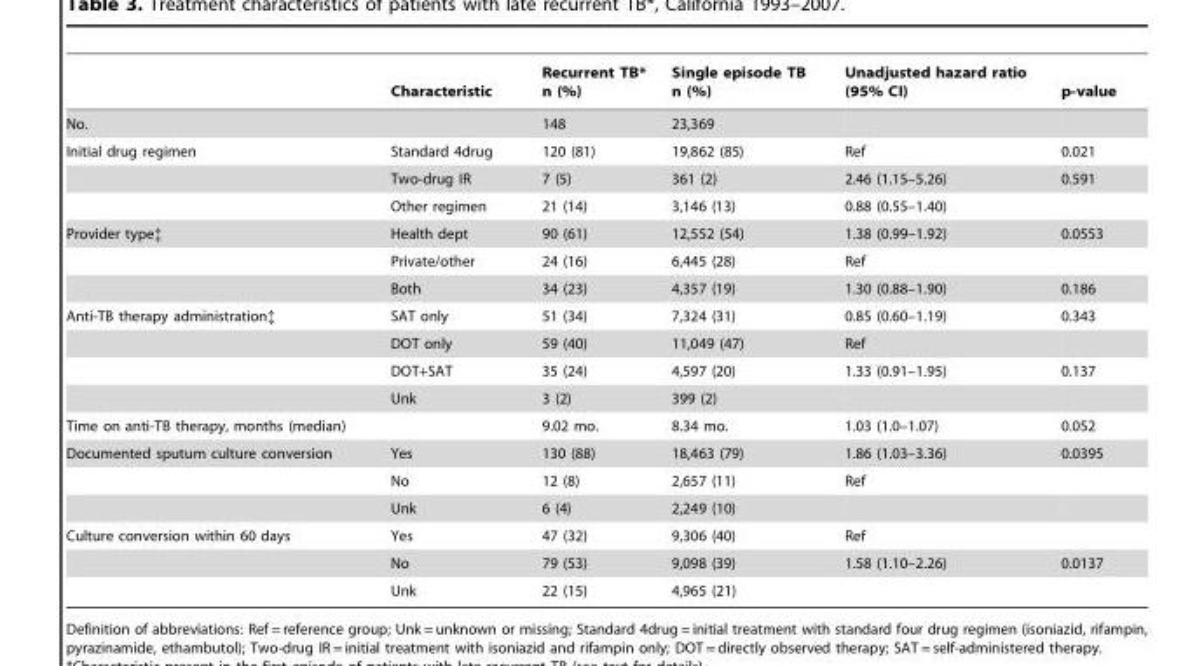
<table><thead><tr><td></td><td>Characteristic</td><td>Recurrent TB* n (%)</td><td>Single episode TB n (%)</td><td>Unadjusted hazard ratio (95% CI)</td><td>p-value</td></tr></thead><tbody><tr><td>No.</td><td></td><td>148</td><td>23,369</td><td></td><td></td></tr><tr><td rowspan="3">Initial drug regimen</td><td>Standard 4drug</td><td>120 (81)</td><td>19,862 (85)</td><td>Ref</td><td>0.021</td></tr><tr><td>Two-drug IR</td><td>7 (5)</td><td>361 (2)</td><td>2.46 (1.15–5.26)</td><td>0.591</td></tr><tr><td>Other regimen</td><td>21 (14)</td><td>3,146 (13)</td><td>0.88 (0.55–1.40)</td><td></td></tr><tr><td rowspan="3">Provider type‡</td><td>Health dept</td><td>90 (61)</td><td>12,552 (54)</td><td>1.38 (0.99–1.92)</td><td>0.0553</td></tr><tr><td>Private/other</td><td>24 (16)</td><td>6,445 (28)</td><td>Ref</td><td></td></tr><tr><td>Both</td><td>34 (23)</td><td>4,357 (19)</td><td>1.30 (0.88–1.90)</td><td>0.186</td></tr><tr><td rowspan="4">Anti-TB therapy administration‡</td><td>SAT only</td><td>51 (34)</td><td>7,324 (31)</td><td>0.85 (0.60–1.19)</td><td>0.343</td></tr><tr><td>DOT only</td><td>59 (40)</td><td>11,049 (47)</td><td>Ref</td><td></td></tr><tr><td>DOT+SAT</td><td>35 (24)</td><td>4,597 (20)</td><td>1.33 (0.91–1.95)</td><td>0.137</td></tr><tr><td>Unk</td><td>3 (2)</td><td>399 (2)</td><td></td><td></td></tr><tr><td>Time on anti-TB therapy, months (median)</td><td></td><td>9.02 mo.</td><td>8.34 mo.</td><td>1.03 (1.0–1.07)</td><td>0.052</td></tr><tr><td rowspan="3">Documented sputum culture conversion</td><td>Yes</td><td>130 (88)</td><td>18,463 (79)</td><td>1.86 (1.03–3.36)</td><td>0.0395</td></tr><tr><td>No</td><td>12 (8)</td><td>2,657 (11)</td><td>Ref</td><td></td></tr><tr><td>Unk</td><td>6 (4)</td><td>2,249 (10)</td><td></td><td></td></tr><tr><td rowspan="3">Culture conversion within 60 days</td><td>Yes</td><td>47 (32)</td><td>9,306 (40)</td><td>Ref</td><td></td></tr><tr><td>No</td><td>79 (53)</td><td>9,098 (39)</td><td>1.58 (1.10–2.26)</td><td>0.0137</td></tr><tr><td>Unk</td><td>22 (15)</td><td>4,965 (21)</td><td></td><td></td></tr></tbody></table>